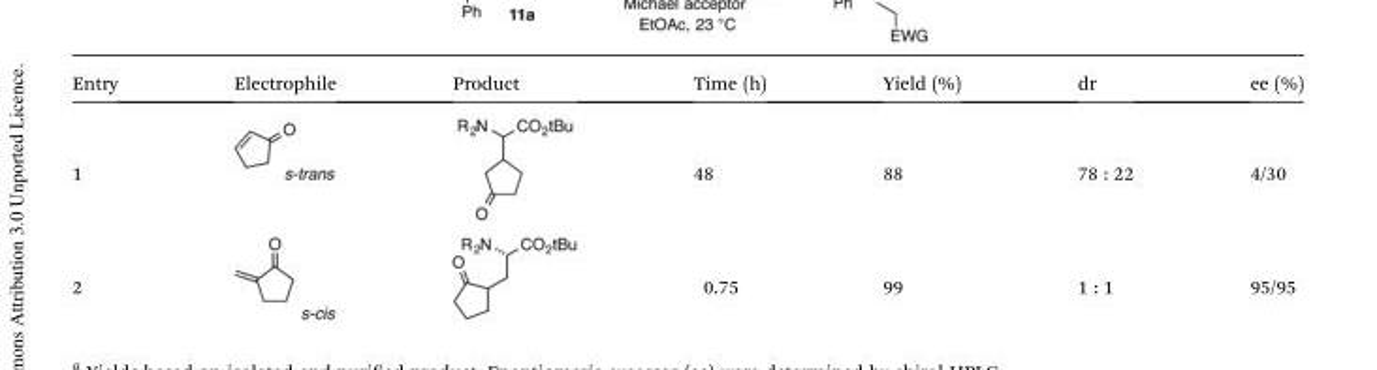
<table><thead><tr><td>Entry</td><td>Electrophile</td><td>Product</td><td>Time (h)</td><td>Yield (%)</td><td>dr</td><td>ee (%)</td></tr></thead><tbody><tr><td>1</td><td></td><td></td><td>48</td><td>88</td><td>78 : 22</td><td>4/30</td></tr><tr><td>2</td><td></td><td></td><td>0.75</td><td>99</td><td>1 : 1</td><td>95/95</td></tr></tbody></table>